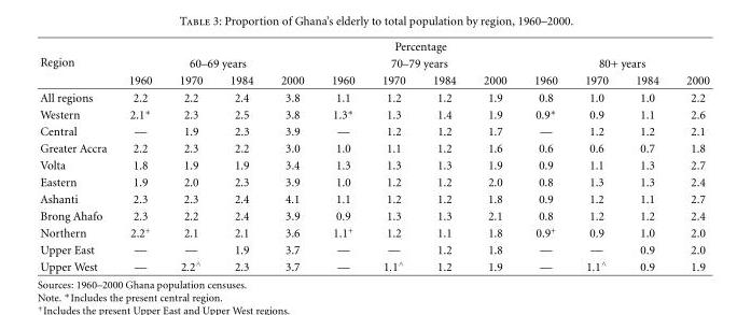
<table><thead><tr><td rowspan="3">Region</td><td colspan="12">Percentage</td></tr><tr><td colspan="4">60–69 years</td><td colspan="4">70–79 years</td><td colspan="4">80+ years</td></tr><tr><td>1960</td><td>1970</td><td>1984</td><td>2000</td><td>1960</td><td>1970</td><td>1984</td><td>2000</td><td>1960</td><td>1970</td><td>1984</td><td>2000</td></tr></thead><tbody><tr><td>All regions</td><td>2.2</td><td>2.2</td><td>2.4</td><td>3.8</td><td>1.1</td><td>1.2</td><td>1.2</td><td>1.9</td><td>0.8</td><td>1.0</td><td>1.0</td><td>2.2</td></tr><tr><td>Western</td><td>2.1∗</td><td>2.3</td><td>2.5</td><td>3.8</td><td>1.3∗</td><td>1.3</td><td>1.4</td><td>1.9</td><td>0.9∗</td><td>0.9</td><td>1.1</td><td>2.6</td></tr><tr><td>Central</td><td>—</td><td>1.9</td><td>2.3</td><td>3.9</td><td>—</td><td>1.2</td><td>1.2</td><td>1.7</td><td>—</td><td>1.2</td><td>1.2</td><td>2.1</td></tr><tr><td>Greater Accra</td><td>2.2</td><td>2.3</td><td>2.2</td><td>3.0</td><td>1.0</td><td>1.1</td><td>1.2</td><td>1.6</td><td>0.6</td><td>0.6</td><td>0.7</td><td>1.8</td></tr><tr><td>Volta</td><td>1.8</td><td>1.9</td><td>1.9</td><td>3.4</td><td>1.3</td><td>1.3</td><td>1.3</td><td>1.9</td><td>0.9</td><td>1.1</td><td>1.3</td><td>2.7</td></tr><tr><td>Eastern</td><td>1.9</td><td>2.0</td><td>2.3</td><td>3.9</td><td>1.0</td><td>1.2</td><td>1.2</td><td>2.0</td><td>0.8</td><td>1.3</td><td>1.3</td><td>2.4</td></tr><tr><td>Ashanti</td><td>2.3</td><td>2.3</td><td>2.4</td><td>4.1</td><td>1.1</td><td>1.2</td><td>1.2</td><td>1.8</td><td>0.9</td><td>1.2</td><td>1.1</td><td>2.7</td></tr><tr><td>Brong Ahafo</td><td>2.3</td><td>2.2</td><td>2.4</td><td>3.9</td><td>0.9</td><td>1.3</td><td>1.3</td><td>2.1</td><td>0.8</td><td>1.2</td><td>1.2</td><td>2.4</td></tr><tr><td>Northern</td><td>2.2<sup>+</sup></td><td>2.1</td><td>2.1</td><td>3.6</td><td>1.1<sup>+</sup></td><td>1.2</td><td>1.1</td><td>1.8</td><td>0.9<sup>+</sup></td><td>0.9</td><td>1.0</td><td>2.0</td></tr><tr><td>Upper East</td><td>—</td><td>—</td><td>1.9</td><td>3.7</td><td>—</td><td>—</td><td>1.2</td><td>1.8</td><td>—</td><td>—</td><td>0.9</td><td>2.0</td></tr><tr><td>Upper West</td><td>—</td><td>2.2<sup>∧</sup></td><td>2.3</td><td>3.7</td><td>—</td><td>1.1<sup>∧</sup></td><td>1.2</td><td>1.9</td><td>—</td><td>1.1<sup>∧</sup></td><td>0.9</td><td>1.9</td></tr></tbody></table>